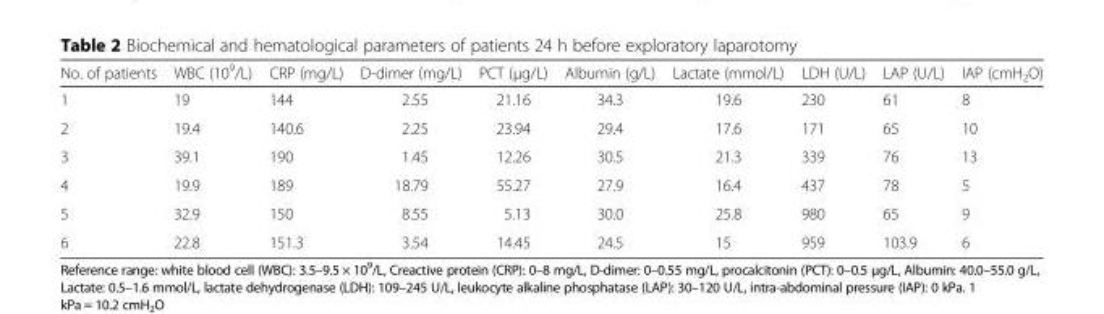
<table><thead><tr><td>No. of patients</td><td>WBC (10<sup>9</sup>/L)</td><td>CRP (mg/L)</td><td>D-dimer (mg/L)</td><td>PCT (μg/L)</td><td>Albumin (g/L)</td><td>Lactate (mmol/L)</td><td>LDH (U/L)</td><td>LAP (U/L)</td><td>IAP (cmH<sub>2</sub>O)</td></tr></thead><tbody><tr><td>1</td><td>19</td><td>144</td><td>2.55</td><td>21.16</td><td>34.3</td><td>19.6</td><td>230</td><td>61</td><td>8</td></tr><tr><td>2</td><td>19.4</td><td>140.6</td><td>2.25</td><td>23.94</td><td>29.4</td><td>17.6</td><td>171</td><td>65</td><td>10</td></tr><tr><td>3</td><td>39.1</td><td>190</td><td>1.45</td><td>12.26</td><td>30.5</td><td>21.3</td><td>339</td><td>76</td><td>13</td></tr><tr><td>4</td><td>19.9</td><td>189</td><td>18.79</td><td>55.27</td><td>27.9</td><td>16.4</td><td>437</td><td>78</td><td>5</td></tr><tr><td>5</td><td>32.9</td><td>150</td><td>8.55</td><td>5.13</td><td>30.0</td><td>25.8</td><td>980</td><td>65</td><td>9</td></tr><tr><td>6</td><td>22.8</td><td>151.3</td><td>3.54</td><td>14.45</td><td>24.5</td><td>15</td><td>959</td><td>103.9</td><td>6</td></tr></tbody></table>